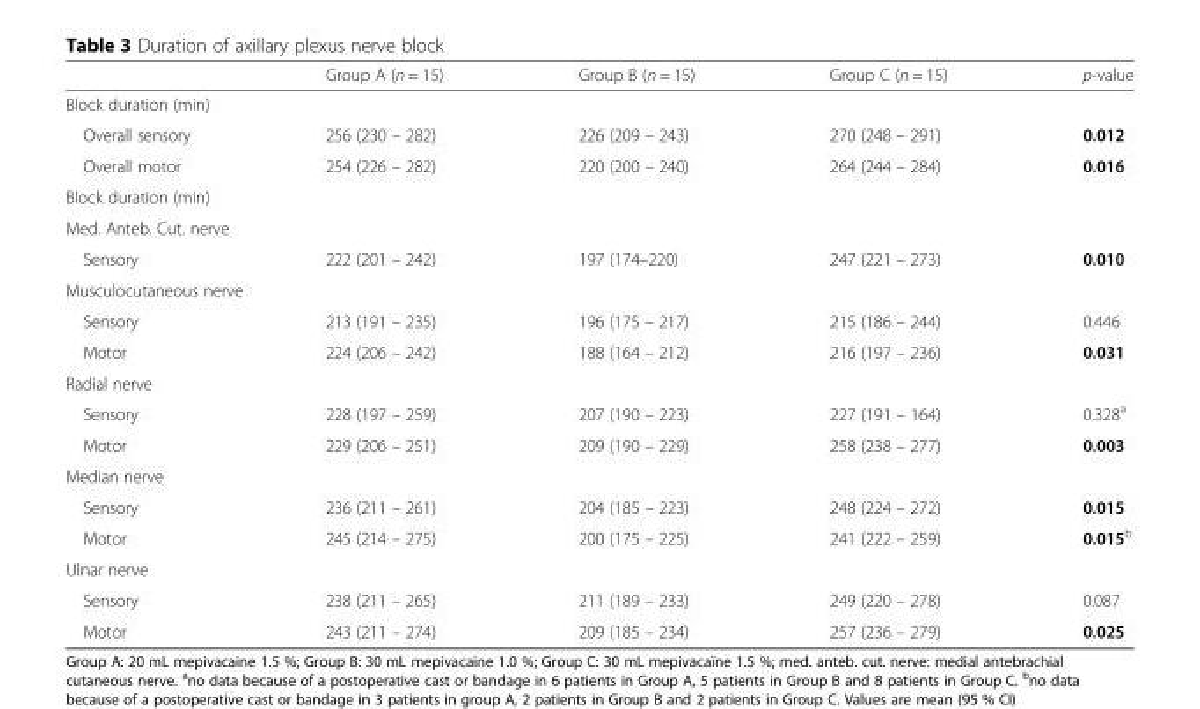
<table><thead><tr><td></td><td>Group A (n = 15)</td><td>Group B (n = 15)</td><td>Group C (n = 15)</td><td>p-value</td></tr></thead><tbody><tr><td colspan="5">Block duration (min)</td></tr><tr><td>Overall sensory</td><td>256 (230 – 282)</td><td>226 (209 – 243)</td><td>270 (248 – 291)</td><td>0.012</td></tr><tr><td>Overall motor</td><td>254 (226 – 282)</td><td>220 (200 – 240)</td><td>264 (244 – 284)</td><td>0.016</td></tr><tr><td colspan="5">Block duration (min)</td></tr><tr><td colspan="5">Med. Anteb. Cut. nerve</td></tr><tr><td>Sensory</td><td>222 (201 – 242)</td><td>197 (174–220)</td><td>247 (221 – 273)</td><td>0.010</td></tr><tr><td colspan="5">Musculocutaneous nerve</td></tr><tr><td>Sensory</td><td>213 (191 – 235)</td><td>196 (175 – 217)</td><td>215 (186 – 244)</td><td>0.446</td></tr><tr><td>Motor</td><td>224 (206 – 242)</td><td>188 (164 – 212)</td><td>216 (197 – 236)</td><td>0.031</td></tr><tr><td colspan="5">Radial nerve</td></tr><tr><td>Sensory</td><td>228 (197 – 259)</td><td>207 (190 – 223)</td><td>227 (191 – 164)</td><td>0.328<sup>a</sup></td></tr><tr><td>Motor</td><td>229 (206 – 251)</td><td>209 (190 – 229)</td><td>258 (238 – 277)</td><td>0.003</td></tr><tr><td colspan="5">Median nerve</td></tr><tr><td>Sensory</td><td>236 (211 – 261)</td><td>204 (185 – 223)</td><td>248 (224 – 272)</td><td>0.015</td></tr><tr><td>Motor</td><td>245 (214 – 275)</td><td>200 (175 – 225)</td><td>241 (222 – 259)</td><td>0.015<sup>b</sup></td></tr><tr><td colspan="5">Ulnar nerve</td></tr><tr><td>Sensory</td><td>238 (211 – 265)</td><td>211 (189 – 233)</td><td>249 (220 – 278)</td><td>0.087</td></tr><tr><td>Motor</td><td>243 (211 – 274)</td><td>209 (185 – 234)</td><td>257 (236 – 279)</td><td>0.025</td></tr></tbody></table>